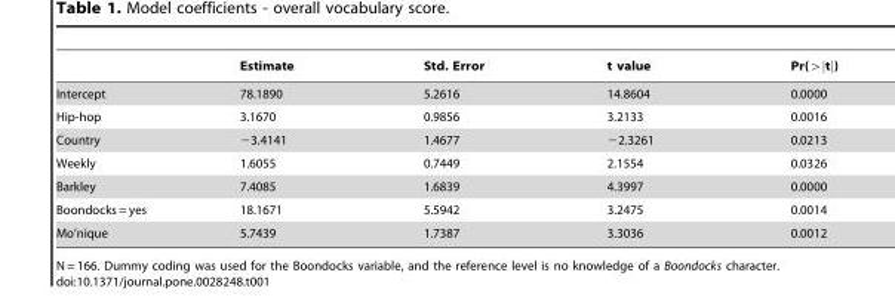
<table><thead><tr><td></td><td>Estimate</td><td>Std. Error</td><td>t value</td><td>Pr(wjtj)</td></tr></thead><tbody><tr><td>Intercept</td><td>78.1890</td><td>5.2616</td><td>14.8604</td><td>0.0000</td></tr><tr><td>Hip-hop</td><td>3.1670</td><td>0.9856</td><td>3.2133</td><td>0.0016</td></tr><tr><td>Country</td><td>−3.4141</td><td>1.4677</td><td>−2.3261</td><td>0.0213</td></tr><tr><td>Weekly</td><td>1.6055</td><td>0.7449</td><td>2.1554</td><td>0.0326</td></tr><tr><td>Barkley</td><td>7.4085</td><td>1.6839</td><td>4.3997</td><td>0.0000</td></tr><tr><td>Boondocks = yes</td><td>18.1671</td><td>5.5942</td><td>3.2475</td><td>0.0014</td></tr><tr><td>Mo’nique</td><td>5.7439</td><td>1.7387</td><td>3.3036</td><td>0.0012</td></tr></tbody></table>